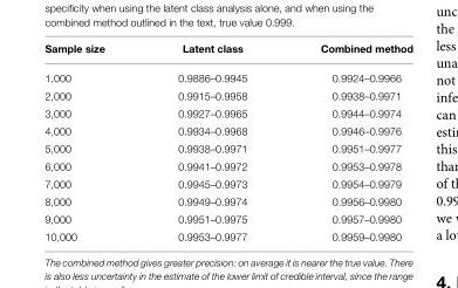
<table><thead><tr><td>Sample size</td><td>Latent class</td><td>Combined method</td></tr></thead><tbody><tr><td>1,000</td><td>0.9886–0.9945</td><td>0.9924–0.9966</td></tr><tr><td>2,000</td><td>0.9915–0.9958</td><td>0.9938–0.9971</td></tr><tr><td>3,000</td><td>0.9927–0.9965</td><td>0.9944–0.9974</td></tr><tr><td>4,000</td><td>0.9934–0.9968</td><td>0.9946–0.9976</td></tr><tr><td>5,000</td><td>0.9938–0.9971</td><td>0.9951–0.9977</td></tr><tr><td>6,000</td><td>0.9941–0.9972</td><td>0.9953–0.9978</td></tr><tr><td>7,000</td><td>0.9945–0.9973</td><td>0.9954–0.9979</td></tr><tr><td>8,000</td><td>0.9949–0.9974</td><td>0.9956–0.9980</td></tr><tr><td>9,000</td><td>0.9951–0.9975</td><td>0.9957–0.9980</td></tr><tr><td>10,000</td><td>0.9953–0.9977</td><td>0.9959–0.9980</td></tr></tbody></table>